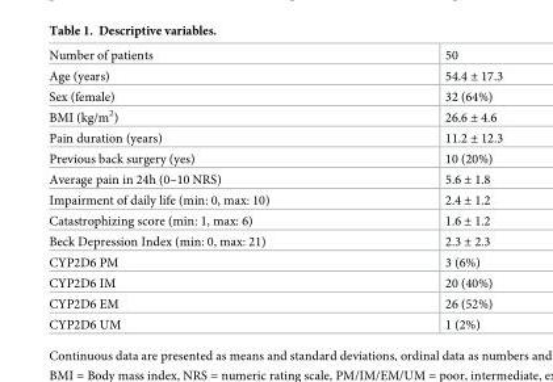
<table><tbody><tr><td>Number of patients</td><td>50</td></tr><tr><td>Age (years)</td><td>54.4 ± 17.3</td></tr><tr><td>Sex (female)</td><td>32 (64%)</td></tr><tr><td>BMI (kg/m<sup>2</sup>)</td><td>26.6 ± 4.6</td></tr><tr><td>Pain duration (years)</td><td>11.2 ± 12.3</td></tr><tr><td>Previous back surgery (yes)</td><td>10 (20%)</td></tr><tr><td>Average pain in 24h (0–10 NRS)</td><td>5.6 ± 1.8</td></tr><tr><td>Impairment of daily life (min: 0, max: 10)</td><td>2.4 ± 1.2</td></tr><tr><td>Catastrophizing score (min: 1, max: 6)</td><td>1.6 ± 1.2</td></tr><tr><td>Beck Depression Index (min: 0, max: 21)</td><td>2.3 ± 2.3</td></tr><tr><td>CYP2D6 PM</td><td>3 (6%)</td></tr><tr><td>CYP2D6 IM</td><td>20 (40%)</td></tr><tr><td>CYP2D6 EM</td><td>26 (52%)</td></tr><tr><td>CYP2D6 UM</td><td>1 (2%)</td></tr></tbody></table>